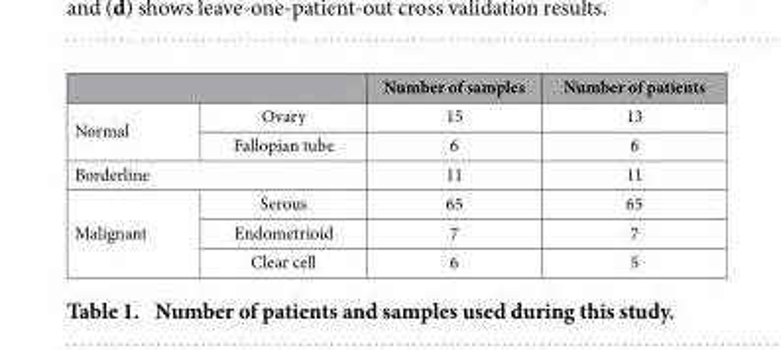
<table><thead><tr><td></td><td></td><td>Number of samples</td><td>Number of patients</td></tr></thead><tbody><tr><td rowspan="2">Normal</td><td>Ovary</td><td>15</td><td>13</td></tr><tr><td>Fallopian tube</td><td>6</td><td>6</td></tr><tr><td colspan="2">Borderline</td><td>11</td><td>11</td></tr><tr><td rowspan="3">Malignant</td><td>Serous</td><td>65</td><td>65</td></tr><tr><td>Endometrioid</td><td>7</td><td>7</td></tr><tr><td>Clear cell</td><td>6</td><td>5</td></tr></tbody></table>